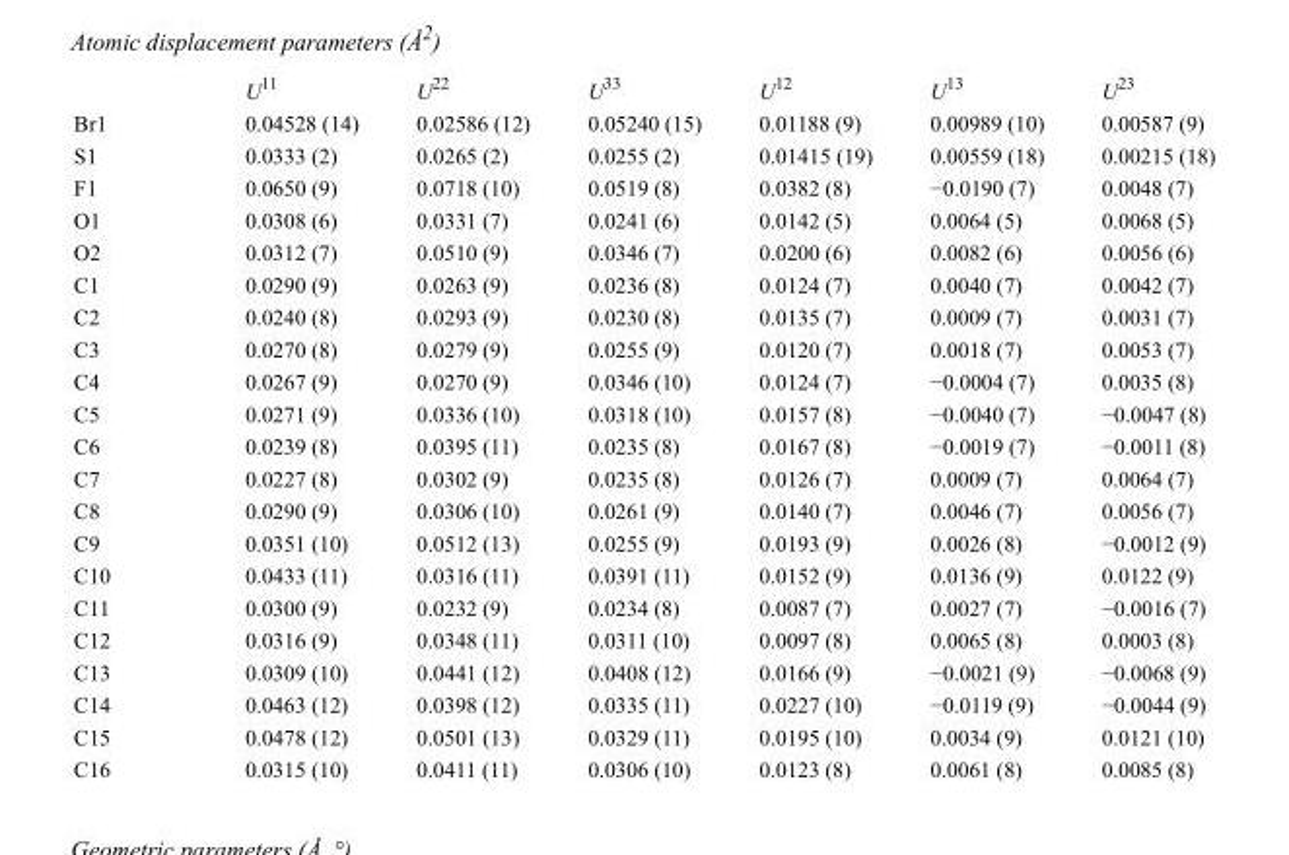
<table><thead><tr><td></td><td>U<sup>11</sup></td><td>U<sup>22</sup></td><td>U<sup>33</sup></td><td>U<sup>12</sup></td><td>U<sup>13</sup></td><td>U<sup>23</sup></td></tr></thead><tbody><tr><td>Br1</td><td>0.04528 (14)</td><td>0.02586 (12)</td><td>0.05240 (15)</td><td>0.01188 (9)</td><td>0.00989 (10)</td><td>0.00587 (9)</td></tr><tr><td>S1</td><td>0.0333 (2)</td><td>0.0265 (2)</td><td>0.0255 (2)</td><td>0.01415 (19)</td><td>0.00559 (18)</td><td>0.00215 (18)</td></tr><tr><td>F1</td><td>0.0650 (9)</td><td>0.0718 (10)</td><td>0.0519 (8)</td><td>0.0382 (8)</td><td>−0.0190 (7)</td><td>0.0048 (7)</td></tr><tr><td>O1</td><td>0.0308 (6)</td><td>0.0331 (7)</td><td>0.0241 (6)</td><td>0.0142 (5)</td><td>0.0064 (5)</td><td>0.0068 (5)</td></tr><tr><td>O2</td><td>0.0312 (7)</td><td>0.0510 (9)</td><td>0.0346 (7)</td><td>0.0200 (6)</td><td>0.0082 (6)</td><td>0.0056 (6)</td></tr><tr><td>C1</td><td>0.0290 (9)</td><td>0.0263 (9)</td><td>0.0236 (8)</td><td>0.0124 (7)</td><td>0.0040 (7)</td><td>0.0042 (7)</td></tr><tr><td>C2</td><td>0.0240 (8)</td><td>0.0293 (9)</td><td>0.0230 (8)</td><td>0.0135 (7)</td><td>0.0009 (7)</td><td>0.0031 (7)</td></tr><tr><td>C3</td><td>0.0270 (8)</td><td>0.0279 (9)</td><td>0.0255 (9)</td><td>0.0120 (7)</td><td>0.0018 (7)</td><td>0.0053 (7)</td></tr><tr><td>C4</td><td>0.0267 (9)</td><td>0.0270 (9)</td><td>0.0346 (10)</td><td>0.0124 (7)</td><td>−0.0004 (7)</td><td>0.0035 (8)</td></tr><tr><td>C5</td><td>0.0271 (9)</td><td>0.0336 (10)</td><td>0.0318 (10)</td><td>0.0157 (8)</td><td>−0.0040 (7)</td><td>−0.0047 (8)</td></tr><tr><td>C6</td><td>0.0239 (8)</td><td>0.0395 (11)</td><td>0.0235 (8)</td><td>0.0167 (8)</td><td>−0.0019 (7)</td><td>−0.0011 (8)</td></tr><tr><td>C7</td><td>0.0227 (8)</td><td>0.0302 (9)</td><td>0.0235 (8)</td><td>0.0126 (7)</td><td>0.0009 (7)</td><td>0.0064 (7)</td></tr><tr><td>C8</td><td>0.0290 (9)</td><td>0.0306 (10)</td><td>0.0261 (9)</td><td>0.0140 (7)</td><td>0.0046 (7)</td><td>0.0056 (7)</td></tr><tr><td>C9</td><td>0.0351 (10)</td><td>0.0512 (13)</td><td>0.0255 (9)</td><td>0.0193 (9)</td><td>0.0026 (8)</td><td>−0.0012 (9)</td></tr><tr><td>C10</td><td>0.0433 (11)</td><td>0.0316 (11)</td><td>0.0391 (11)</td><td>0.0152 (9)</td><td>0.0136 (9)</td><td>0.0122 (9)</td></tr><tr><td>C11</td><td>0.0300 (9)</td><td>0.0232 (9)</td><td>0.0234 (8)</td><td>0.0087 (7)</td><td>0.0027 (7)</td><td>−0.0016 (7)</td></tr><tr><td>C12</td><td>0.0316 (9)</td><td>0.0348 (11)</td><td>0.0311 (10)</td><td>0.0097 (8)</td><td>0.0065 (8)</td><td>0.0003 (8)</td></tr><tr><td>C13</td><td>0.0309 (10)</td><td>0.0441 (12)</td><td>0.0408 (12)</td><td>0.0166 (9)</td><td>−0.0021 (9)</td><td>−0.0068 (9)</td></tr><tr><td>C14</td><td>0.0463 (12)</td><td>0.0398 (12)</td><td>0.0335 (11)</td><td>0.0227 (10)</td><td>−0.0119 (9)</td><td>−0.0044 (9)</td></tr><tr><td>C15</td><td>0.0478 (12)</td><td>0.0501 (13)</td><td>0.0329 (11)</td><td>0.0195 (10)</td><td>0.0034 (9)</td><td>0.0121 (10)</td></tr><tr><td>C16</td><td>0.0315 (10)</td><td>0.0411 (11)</td><td>0.0306 (10)</td><td>0.0123 (8)</td><td>0.0061 (8)</td><td>0.0085 (8)</td></tr></tbody></table>